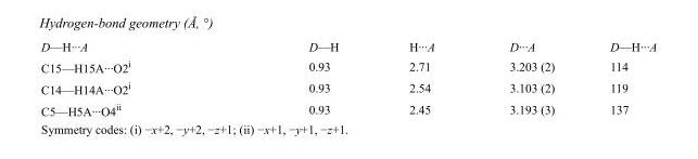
<table><tbody><tr><td>D—H···A</td><td>D—H</td><td>H···A</td><td>D···A</td><td>D—H···A</td></tr><tr><td>C15—H15A···O2<sup>i</sup></td><td>0.93</td><td>2.71</td><td>3.203 (2)</td><td>114</td></tr><tr><td>C14—H14A···O2<sup>i</sup></td><td>0.93</td><td>2.54</td><td>3.103 (2)</td><td>119</td></tr><tr><td>C5—H5A···O4<sup>ii</sup></td><td>0.93</td><td>2.45</td><td>3.193 (3)</td><td>137</td></tr></tbody></table>